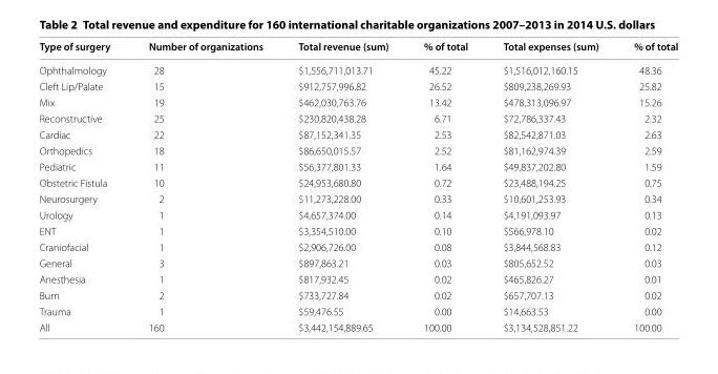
<table><thead><tr><td>Type of surgery</td><td>Number of organizations</td><td>Total revenue (sum)</td><td>% of total</td><td>Total expenses (sum)</td><td>% of total</td></tr></thead><tbody><tr><td>Ophthalmology</td><td>28</td><td>$1,556,711,013.71</td><td>45.22</td><td>$1,516,012,160.15</td><td>48.36</td></tr><tr><td>Cleft Lip/Palate</td><td>15</td><td>$912,757,996.82</td><td>26.52</td><td>$809,238,269.93</td><td>25.82</td></tr><tr><td>Mix</td><td>19</td><td>$462,030,763.76</td><td>13.42</td><td>$478,313,096.97</td><td>15.26</td></tr><tr><td>Reconstructive</td><td>25</td><td>$230,820,438.28</td><td>6.71</td><td>$72,786,337.43</td><td>2.32</td></tr><tr><td>Cardiac</td><td>22</td><td>$87,152,341.35</td><td>2.53</td><td>$82,542,871.03</td><td>2.63</td></tr><tr><td>Orthopedics</td><td>18</td><td>$86,650,015.57</td><td>2.52</td><td>$81,162,974.39</td><td>2.59</td></tr><tr><td>Pediatric</td><td>11</td><td>$56,377,801.33</td><td>1.64</td><td>$49,837,202.80</td><td>1.59</td></tr><tr><td>Obstetric Fistula</td><td>10</td><td>$24,953,680.80</td><td>0.72</td><td>$23,488,194.25</td><td>0.75</td></tr><tr><td>Neurosurgery</td><td>2</td><td>$11,273,228.00</td><td>0.33</td><td>$10,601,253.93</td><td>0.34</td></tr><tr><td>Urology</td><td>1</td><td>$4,657,374.00</td><td>0.14</td><td>$4,191,093.97</td><td>0.13</td></tr><tr><td>ENT</td><td>1</td><td>$3,354,510.00</td><td>0.10</td><td>$566,978.10</td><td>0.02</td></tr><tr><td>Craniofacial</td><td>1</td><td>$2,906,726.00</td><td>0.08</td><td>$3,844,568.83</td><td>0.12</td></tr><tr><td>General</td><td>3</td><td>$897,863.21</td><td>0.03</td><td>$805,652.52</td><td>0.03</td></tr><tr><td>Anesthesia</td><td>1</td><td>$817,932.45</td><td>0.02</td><td>$465,826.27</td><td>0.01</td></tr><tr><td>Burn</td><td>2</td><td>$733,727.84</td><td>0.02</td><td>$657,707.13</td><td>0.02</td></tr><tr><td>Trauma</td><td>1</td><td>$59,476.55</td><td>0.00</td><td>$14,663.53</td><td>0.00</td></tr><tr><td>All</td><td>160</td><td>$3,442,154,889.65</td><td>100.00</td><td>$3,134,528,851.22</td><td>100.00</td></tr></tbody></table>